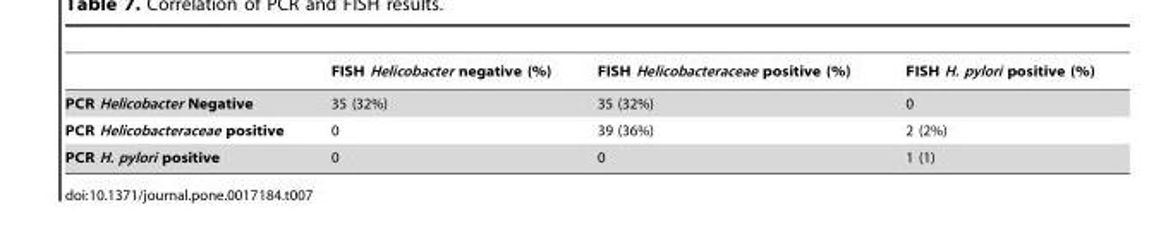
<table><thead><tr><td></td><td>FISH Helicobacter negative (%)</td><td>FISH Helicobacteraceae positive (%)</td><td>FISH H. pylori positive (%)</td></tr></thead><tbody><tr><td>PCR Helicobacter Negative</td><td>35 (32%)</td><td>35 (32%)</td><td>0</td></tr><tr><td>PCR Helicobacteraceae positive</td><td>0</td><td>39 (36%)</td><td>2 (2%)</td></tr><tr><td>PCR H. pylori positive</td><td>0</td><td>0</td><td>1 (1)</td></tr></tbody></table>